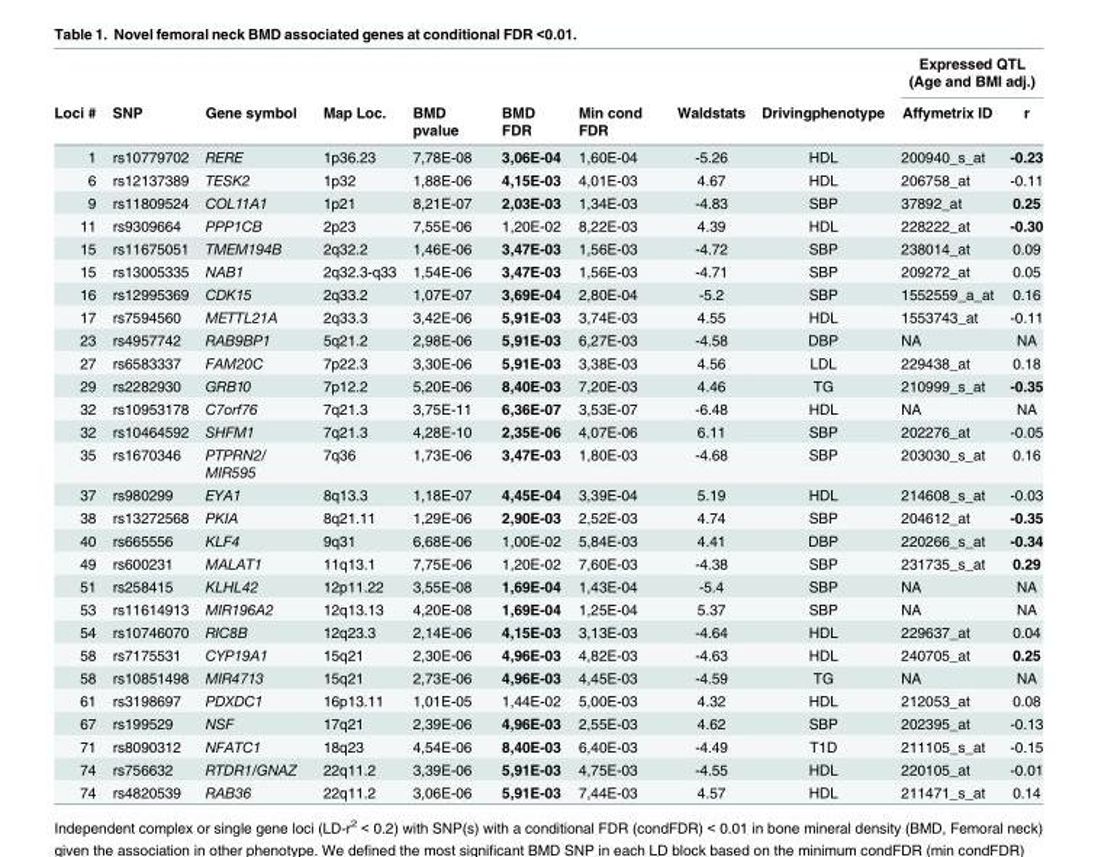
<table><thead><tr><td rowspan="2">Loci #</td><td rowspan="2">SNP</td><td rowspan="2">Gene symbol</td><td rowspan="2">Map Loc.</td><td rowspan="2">BMD pvalue</td><td rowspan="2">BMD FDR</td><td rowspan="2">Min cond FDR</td><td rowspan="2">Waldstats</td><td rowspan="2">Drivingphenotype</td><td colspan="2">Expressed QTL (Age and BMI adj.)</td></tr><tr><td>Affymetrix ID</td><td>r</td></tr></thead><tbody><tr><td>1</td><td>rs10779702</td><td>RERE</td><td>1p36.23</td><td>7,78E-08</td><td>3,06E-04</td><td>1,60E-04</td><td>-5.26</td><td>HDL</td><td>200940_s_at</td><td>-0.23</td></tr><tr><td>6</td><td>rs12137389</td><td>TESK2</td><td>1p32</td><td>1,88E-06</td><td>4,15E-03</td><td>4,01E-03</td><td>4.67</td><td>HDL</td><td>206758_at</td><td>-0.11</td></tr><tr><td>9</td><td>rs11809524</td><td>COL11A1</td><td>1p21</td><td>8,21E-07</td><td>2,03E-03</td><td>1,34E-03</td><td>-4.83</td><td>SBP</td><td>37892_at</td><td>0.25</td></tr><tr><td>11</td><td>rs9309664</td><td>PPP1CB</td><td>2p23</td><td>7,55E-06</td><td>1,20E-02</td><td>8,22E-03</td><td>4.39</td><td>HDL</td><td>228222_at</td><td>-0.30</td></tr><tr><td>15</td><td>rs11675051</td><td>TMEM194B</td><td>2q32.2</td><td>1,46E-06</td><td>3,47E-03</td><td>1,56E-03</td><td>-4.72</td><td>SBP</td><td>238014_at</td><td>0.09</td></tr><tr><td>15</td><td>rs13005335</td><td>NAB1</td><td>2q32.3-q33</td><td>1,54E-06</td><td>3,47E-03</td><td>1,56E-03</td><td>-4.71</td><td>SBP</td><td>209272_at</td><td>0.05</td></tr><tr><td>16</td><td>rs12995369</td><td>CDK15</td><td>2q33.2</td><td>1,07E-07</td><td>3,69E-04</td><td>2,80E-04</td><td>-5.2</td><td>SBP</td><td>1552559_a_at</td><td>0.16</td></tr><tr><td>17</td><td>rs7594560</td><td>METTL21A</td><td>2q33.3</td><td>3,42E-06</td><td>5,91E-03</td><td>3,74E-03</td><td>4.55</td><td>HDL</td><td>1553743_at</td><td>-0.11</td></tr><tr><td>23</td><td>rs4957742</td><td>RAB9BP1</td><td>5q21.2</td><td>2,98E-06</td><td>5,91E-03</td><td>6,27E-03</td><td>-4.58</td><td>DBP</td><td>NA</td><td>NA</td></tr><tr><td>27</td><td>rs6583337</td><td>FAM20C</td><td>7p22.3</td><td>3,30E-06</td><td>5,91E-03</td><td>3,38E-03</td><td>4.56</td><td>LDL</td><td>229438_at</td><td>0.18</td></tr><tr><td>29</td><td>rs2282930</td><td>GRB10</td><td>7p12.2</td><td>5,20E-06</td><td>8,40E-03</td><td>7,20E-03</td><td>4.46</td><td>TG</td><td>210999_s_at</td><td>-0.35</td></tr><tr><td>32</td><td>rs10953178</td><td>C7orf76</td><td>7q21.3</td><td>3,75E-11</td><td>6,36E-07</td><td>3,53E-07</td><td>-6.48</td><td>HDL</td><td>NA</td><td>NA</td></tr><tr><td>32</td><td>rs10464592</td><td>SHFM1</td><td>7q21.3</td><td>4,28E-10</td><td>2,35E-06</td><td>4,07E-06</td><td>6.11</td><td>SBP</td><td>202276_at</td><td>-0.05</td></tr><tr><td>35</td><td>rs1670346</td><td>PTPRN2/ MIR595</td><td>7q36</td><td>1,73E-06</td><td>3,47E-03</td><td>1,80E-03</td><td>-4.68</td><td>SBP</td><td>203030_s_at</td><td>0.16</td></tr><tr><td>37</td><td>rs980299</td><td>EYA1</td><td>8q13.3</td><td>1,18E-07</td><td>4,45E-04</td><td>3,39E-04</td><td>5.19</td><td>HDL</td><td>214608_s_at</td><td>-0.03</td></tr><tr><td>38</td><td>rs13272568</td><td>PKIA</td><td>8q21.11</td><td>1,29E-06</td><td>2,90E-03</td><td>2,52E-03</td><td>4.74</td><td>SBP</td><td>204612_at</td><td>-0.35</td></tr><tr><td>40</td><td>rs665556</td><td>KLF4</td><td>9q31</td><td>6,68E-06</td><td>1,00E-02</td><td>5,84E-03</td><td>4.41</td><td>DBP</td><td>220266_s_at</td><td>-0.34</td></tr><tr><td>49</td><td>rs600231</td><td>MALAT1</td><td>11q13.1</td><td>7,75E-06</td><td>1,20E-02</td><td>7,60E-03</td><td>-4.38</td><td>SBP</td><td>231735_s_at</td><td>0.29</td></tr><tr><td>51</td><td>rs258415</td><td>KLHL42</td><td>12p11.22</td><td>3,55E-08</td><td>1,69E-04</td><td>1,43E-04</td><td>-5.4</td><td>SBP</td><td>NA</td><td>NA</td></tr><tr><td>53</td><td>rs11614913</td><td>MIR196A2</td><td>12q13.13</td><td>4,20E-08</td><td>1,69E-04</td><td>1,25E-04</td><td>5.37</td><td>SBP</td><td>NA</td><td>NA</td></tr><tr><td>54</td><td>rs10746070</td><td>RIC8B</td><td>12q23.3</td><td>2,14E-06</td><td>4,15E-03</td><td>3,13E-03</td><td>-4.64</td><td>HDL</td><td>229637_at</td><td>0.04</td></tr><tr><td>58</td><td>rs7175531</td><td>CYP19A1</td><td>15q21</td><td>2,30E-06</td><td>4,96E-03</td><td>4,82E-03</td><td>-4.63</td><td>HDL</td><td>240705_at</td><td>0.25</td></tr><tr><td>58</td><td>rs10851498</td><td>MIR4713</td><td>15q21</td><td>2,73E-06</td><td>4,96E-03</td><td>4,45E-03</td><td>-4.59</td><td>TG</td><td>NA</td><td>NA</td></tr><tr><td>61</td><td>rs3198697</td><td>PDXDC1</td><td>16p13.11</td><td>1,01E-05</td><td>1,44E-02</td><td>5,00E-03</td><td>4.32</td><td>HDL</td><td>212053_at</td><td>0.08</td></tr><tr><td>67</td><td>rs199529</td><td>NSF</td><td>17q21</td><td>2,39E-06</td><td>4,96E-03</td><td>2,55E-03</td><td>4.62</td><td>SBP</td><td>202395_at</td><td>-0.13</td></tr><tr><td>71</td><td>rs8090312</td><td>NFATC1</td><td>18q23</td><td>4,54E-06</td><td>8,40E-03</td><td>6,40E-03</td><td>-4.49</td><td>T1D</td><td>211105_s_at</td><td>-0.15</td></tr><tr><td>74</td><td>rs756632</td><td>RTDR1/GNAZ</td><td>22q11.2</td><td>3,39E-06</td><td>5,91E-03</td><td>4,75E-03</td><td>-4.55</td><td>HDL</td><td>220105_at</td><td>-0.01</td></tr><tr><td>74</td><td>rs4820539</td><td>RAB36</td><td>22q11.2</td><td>3,06E-06</td><td>5,91E-03</td><td>7,44E-03</td><td>4.57</td><td>HDL</td><td>211471_s_at</td><td>0.14</td></tr></tbody></table>